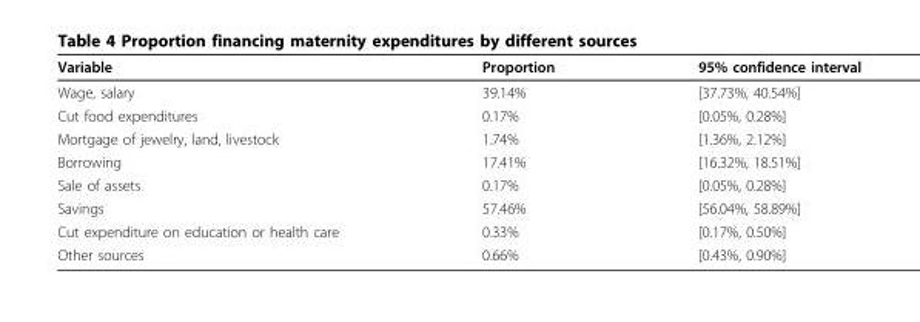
<table><thead><tr><td>Variable</td><td>Proportion</td><td>95% confidence interval</td></tr></thead><tbody><tr><td>Wage, salary</td><td>39.14%</td><td>[37.73%, 40.54%]</td></tr><tr><td>Cut food expenditures</td><td>0.17%</td><td>[0.05%, 0.28%]</td></tr><tr><td>Mortgage of jewelry, land, livestock</td><td>1.74%</td><td>[1.36%, 2.12%]</td></tr><tr><td>Borrowing</td><td>17.41%</td><td>[16.32%, 18.51%]</td></tr><tr><td>Sale of assets</td><td>0.17%</td><td>[0.05%, 0.28%]</td></tr><tr><td>Savings</td><td>57.46%</td><td>[56.04%, 58.89%]</td></tr><tr><td>Cut expenditure on education or health care</td><td>0.33%</td><td>[0.17%, 0.50%]</td></tr><tr><td>Other sources</td><td>0.66%</td><td>[0.43%, 0.90%]</td></tr></tbody></table>